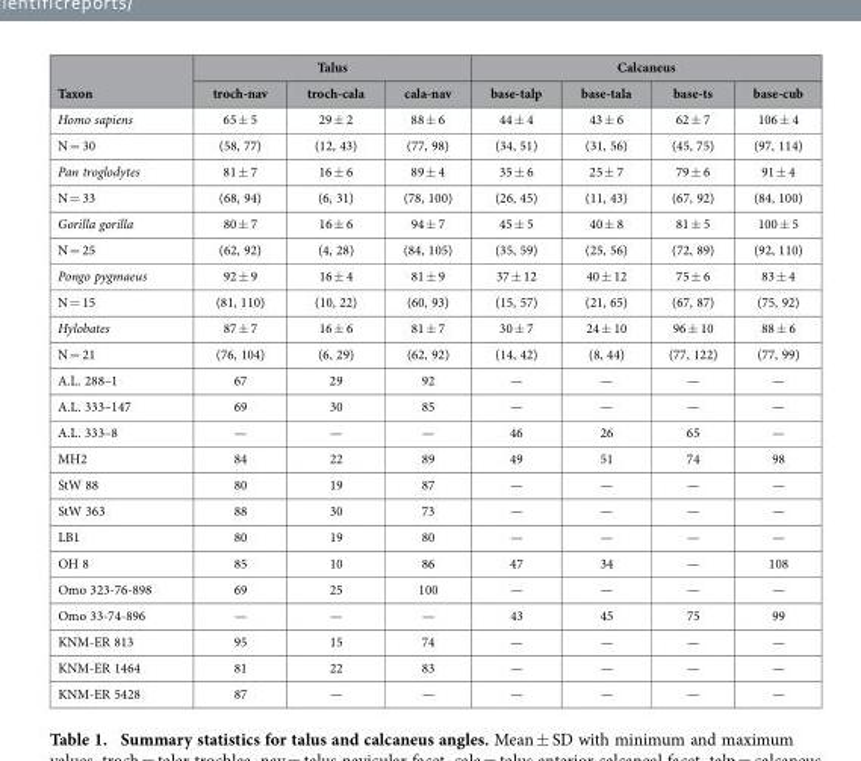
<table><thead><tr><td rowspan="2">Taxon</td><td colspan="3">Talus</td><td colspan="4">Calcaneus</td></tr><tr><td>troch-nav</td><td>troch-cala</td><td>cala-nav</td><td>base-talp</td><td>base-tala</td><td>base-ts</td><td>base-cub</td></tr></thead><tbody><tr><td>Homo sapiens</td><td>65 ± 5</td><td>29 ± 2</td><td>88 ± 6</td><td>44 ± 4</td><td>43 ± 6</td><td>62 ± 7</td><td>106 ± 4</td></tr><tr><td>N = 30</td><td>(58, 77)</td><td>(12, 43)</td><td>(77, 98)</td><td>(34, 51)</td><td>(31, 56)</td><td>(45, 75)</td><td>(97, 114)</td></tr><tr><td>Pan troglodytes</td><td>81 ± 7</td><td>16 ± 6</td><td>89 ± 4</td><td>35 ± 6</td><td>25 ± 7</td><td>79 ± 6</td><td>91 ± 4</td></tr><tr><td>N = 33</td><td>(68, 94)</td><td>(6, 31)</td><td>(78, 100)</td><td>(26, 45)</td><td>(11, 43)</td><td>(67, 92)</td><td>(84, 100)</td></tr><tr><td>Gorilla gorilla</td><td>80 ± 7</td><td>16 ± 6</td><td>94 ± 7</td><td>45 ± 5</td><td>40 ± 8</td><td>81 ± 5</td><td>100 ± 5</td></tr><tr><td>N = 25</td><td>(62, 92)</td><td>(4, 28)</td><td>(84, 105)</td><td>(35, 59)</td><td>(25, 56)</td><td>(72, 89)</td><td>(92, 110)</td></tr><tr><td>Pongo pygmaeus</td><td>92 ± 9</td><td>16 ± 4</td><td>81 ± 9</td><td>37 ± 12</td><td>40 ± 12</td><td>75 ± 6</td><td>83 ± 4</td></tr><tr><td>N = 15</td><td>(81, 110)</td><td>(10, 22)</td><td>(60, 93)</td><td>(15, 57)</td><td>(21, 65)</td><td>(67, 87)</td><td>(75, 92)</td></tr><tr><td>Hylobates</td><td>87 ± 7</td><td>16 ± 6</td><td>81 ± 7</td><td>30 ± 7</td><td>24 ± 10</td><td>96 ± 10</td><td>88 ± 6</td></tr><tr><td>N = 21</td><td>(76, 104)</td><td>(6, 29)</td><td>(62, 92)</td><td>(14, 42)</td><td>(8, 44)</td><td>(77, 122)</td><td>(77, 99)</td></tr><tr><td>A.L. 288–1</td><td>67</td><td>29</td><td>92</td><td>—</td><td>—</td><td>—</td><td>—</td></tr><tr><td>A.L. 333–147</td><td>69</td><td>30</td><td>85</td><td>—</td><td>—</td><td>—</td><td>—</td></tr><tr><td>A.L. 333–8</td><td>—</td><td>—</td><td>—</td><td>46</td><td>26</td><td>65</td><td>—</td></tr><tr><td>MH2</td><td>84</td><td>22</td><td>89</td><td>49</td><td>51</td><td>74</td><td>98</td></tr><tr><td>StW 88</td><td>80</td><td>19</td><td>87</td><td>—</td><td>—</td><td>—</td><td>—</td></tr><tr><td>StW 363</td><td>88</td><td>30</td><td>73</td><td>—</td><td>—</td><td>—</td><td>—</td></tr><tr><td>LB1</td><td>80</td><td>19</td><td>80</td><td>—</td><td>—</td><td>—</td><td>—</td></tr><tr><td>OH 8</td><td>85</td><td>10</td><td>86</td><td>47</td><td>34</td><td>—</td><td>108</td></tr><tr><td>Omo 323-76-898</td><td>69</td><td>25</td><td>100</td><td>—</td><td>—</td><td>—</td><td>—</td></tr><tr><td>Omo 33-74-896</td><td>—</td><td>—</td><td>—</td><td>43</td><td>45</td><td>75</td><td>99</td></tr><tr><td>KNM-ER 813</td><td>95</td><td>15</td><td>74</td><td>—</td><td>—</td><td>—</td><td>—</td></tr><tr><td>KNM-ER 1464</td><td>81</td><td>22</td><td>83</td><td>—</td><td>—</td><td>—</td><td>—</td></tr><tr><td>KNM-ER 5428</td><td>87</td><td>—</td><td>—</td><td>—</td><td>—</td><td>—</td><td>—</td></tr></tbody></table>